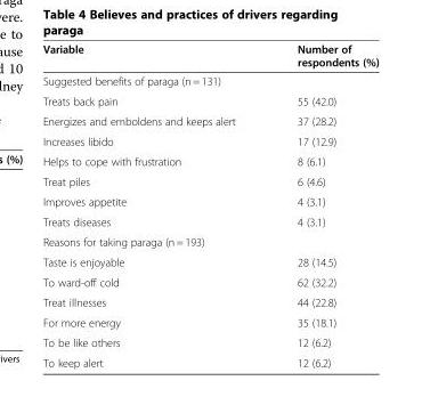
<table><thead><tr><td>Variable</td><td>Number of respondents (%)</td></tr></thead><tbody><tr><td colspan="2">Suggested benefits of paraga (n = 131)</td></tr><tr><td>Treats back pain</td><td>55 (42.0)</td></tr><tr><td>Energizes and emboldens and keeps alert</td><td>37 (28.2)</td></tr><tr><td>Increases libido</td><td>17 (12.9)</td></tr><tr><td>Helps to cope with frustration</td><td>8 (6.1)</td></tr><tr><td>Treat piles</td><td>6 (4.6)</td></tr><tr><td>Improves appetite</td><td>4 (3.1)</td></tr><tr><td>Treats diseases</td><td>4 (3.1)</td></tr><tr><td colspan="2">Reasons for taking paraga (n = 193)</td></tr><tr><td>Taste is enjoyable</td><td>28 (14.5)</td></tr><tr><td>To ward-off cold</td><td>62 (32.2)</td></tr><tr><td>Treat illnesses</td><td>44 (22.8)</td></tr><tr><td>For more energy</td><td>35 (18.1)</td></tr><tr><td>To be like others</td><td>12 (6.2)</td></tr><tr><td>To keep alert</td><td>12 (6.2)</td></tr></tbody></table>